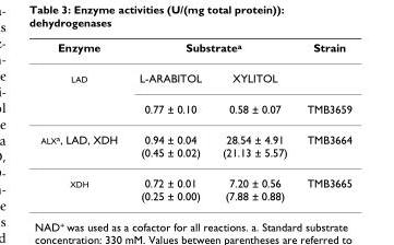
<table><thead><tr><td rowspan="2">Enzyme LAD</td><td colspan="2">Substrate<sup>a</sup></td><td rowspan="2">Strain</td></tr><tr><td>L-ARABITOL</td><td>XYLITOL</td></tr></thead><tbody><tr><td></td><td>0.77 ± 0.10</td><td>0.58 ± 0.07</td><td>TMB3659</td></tr><tr><td>ALX<sup>a</sup>, LAD, XDH</td><td>0.94 ± 0.04 (0.45 ± 0.02)</td><td>28.54 ± 4.91 (21.13 ± 5.57)</td><td>TMB3664</td></tr><tr><td>XDH</td><td>0.72 ± 0.01 (0.25 ± 0.00)</td><td>7.20 ± 0.56 (7.88 ± 0.88)</td><td>TMB3665</td></tr></tbody></table>